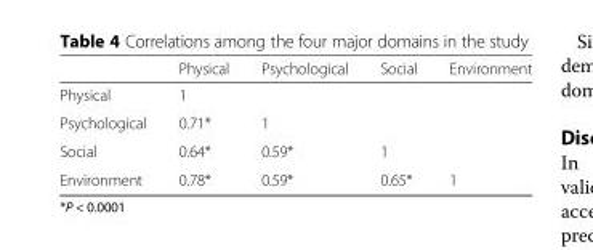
<table><thead><tr><td></td><td>Physical</td><td>Psychological</td><td>Social</td><td>Environment</td></tr></thead><tbody><tr><td>Physical</td><td>1</td><td></td><td></td><td></td></tr><tr><td>Psychological</td><td>0.71*</td><td>1</td><td></td><td></td></tr><tr><td>Social</td><td>0.64*</td><td>0.59*</td><td>1</td><td></td></tr><tr><td>Environment</td><td>0.78*</td><td>0.59*</td><td>0.65*</td><td>1</td></tr></tbody></table>